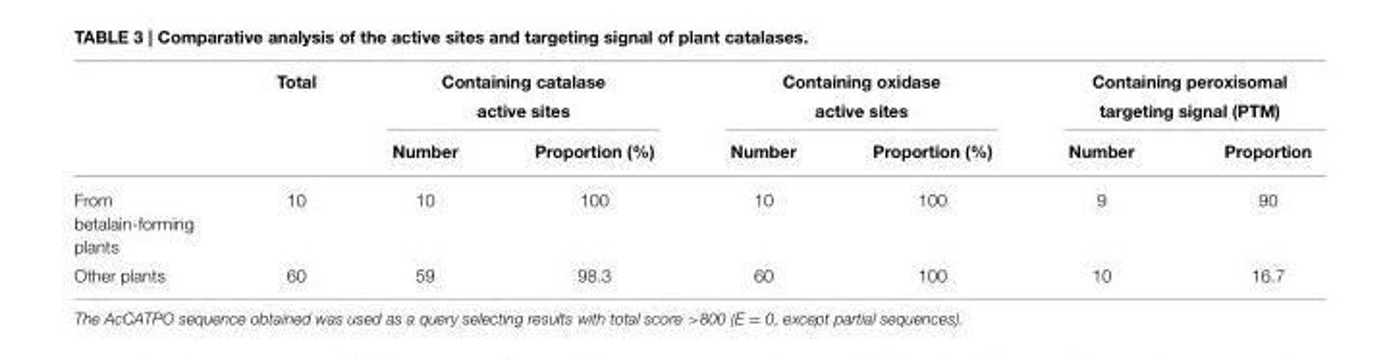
<table><thead><tr><td rowspan="2"></td><td rowspan="2">Total</td><td colspan="2">Containing catalase active sites</td><td colspan="2">Containing oxidase active sites</td><td colspan="2">Containing peroxisomal targeting signal (PTM)</td></tr><tr><td>Number</td><td>Proportion (%)</td><td>Number</td><td>Proportion (%)</td><td>Number</td><td>Proportion</td></tr></thead><tbody><tr><td>From betalain-forming plants</td><td>10</td><td>10</td><td>100</td><td>10</td><td>100</td><td>9</td><td>90</td></tr><tr><td>Other plants</td><td>60</td><td>59</td><td>98.3</td><td>60</td><td>100</td><td>10</td><td>16.7</td></tr></tbody></table>